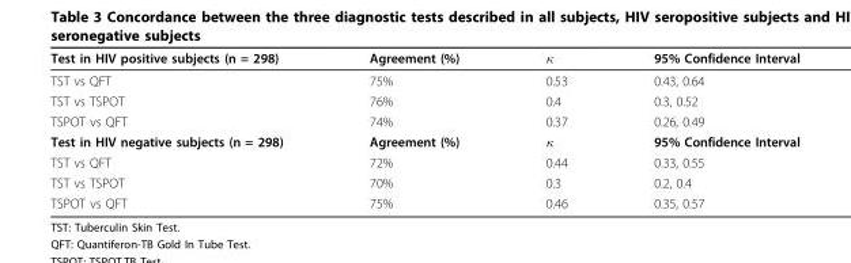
<table><thead><tr><td>Test in HIV positive subjects (n = 298)</td><td>Agreement (%)</td><td>κ</td><td>95% Confidence Interval</td></tr></thead><tbody><tr><td>TST vs QFT</td><td>75%</td><td>0.53</td><td>0.43, 0.64</td></tr><tr><td>TST vs TSPOT</td><td>76%</td><td>0.4</td><td>0.3, 0.52</td></tr><tr><td>TSPOT vs QFT</td><td>74%</td><td>0.37</td><td>0.26, 0.49</td></tr><tr><td>Test in HIV negative subjects (n = 298)</td><td>Agreement (%)</td><td>κ</td><td>95% Confidence Interval</td></tr><tr><td>TST vs QFT</td><td>72%</td><td>0.44</td><td>0.33, 0.55</td></tr><tr><td>TST vs TSPOT</td><td>70%</td><td>0.3</td><td>0.2, 0.4</td></tr><tr><td>TSPOT vs QFT</td><td>75%</td><td>0.46</td><td>0.35, 0.57</td></tr></tbody></table>